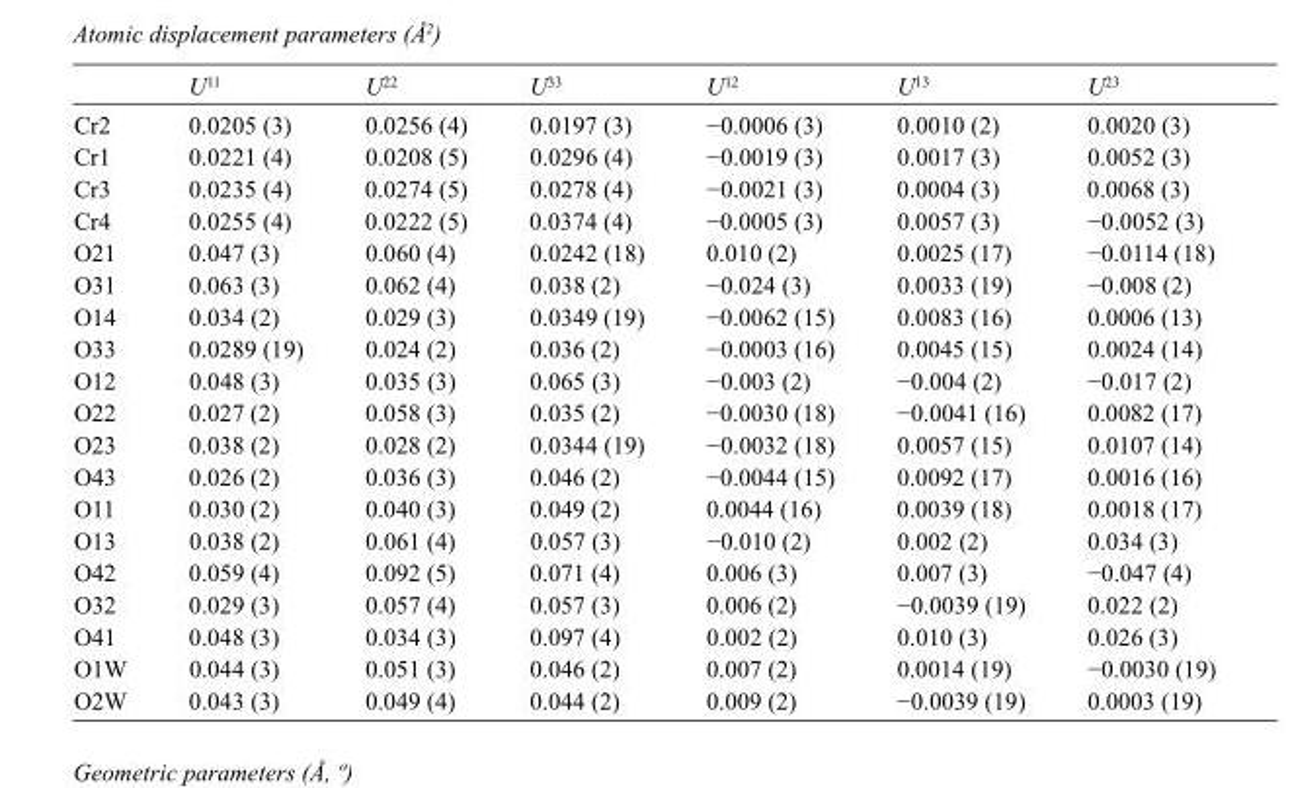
<table><thead><tr><td></td><td>U<sup>11</sup></td><td>U<sup>22</sup></td><td>U<sup>33</sup></td><td>U<sup>12</sup></td><td>U<sup>13</sup></td><td>U<sup>23</sup></td></tr></thead><tbody><tr><td>Cr2</td><td>0.0205 (3)</td><td>0.0256 (4)</td><td>0.0197 (3)</td><td>−0.0006 (3)</td><td>0.0010 (2)</td><td>0.0020 (3)</td></tr><tr><td>Cr1</td><td>0.0221 (4)</td><td>0.0208 (5)</td><td>0.0296 (4)</td><td>−0.0019 (3)</td><td>0.0017 (3)</td><td>0.0052 (3)</td></tr><tr><td>Cr3</td><td>0.0235 (4)</td><td>0.0274 (5)</td><td>0.0278 (4)</td><td>−0.0021 (3)</td><td>0.0004 (3)</td><td>0.0068 (3)</td></tr><tr><td>Cr4</td><td>0.0255 (4)</td><td>0.0222 (5)</td><td>0.0374 (4)</td><td>−0.0005 (3)</td><td>0.0057 (3)</td><td>−0.0052 (3)</td></tr><tr><td>O21</td><td>0.047 (3)</td><td>0.060 (4)</td><td>0.0242 (18)</td><td>0.010 (2)</td><td>0.0025 (17)</td><td>−0.0114 (18)</td></tr><tr><td>O31</td><td>0.063 (3)</td><td>0.062 (4)</td><td>0.038 (2)</td><td>−0.024 (3)</td><td>0.0033 (19)</td><td>−0.008 (2)</td></tr><tr><td>O14</td><td>0.034 (2)</td><td>0.029 (3)</td><td>0.0349 (19)</td><td>−0.0062 (15)</td><td>0.0083 (16)</td><td>0.0006 (13)</td></tr><tr><td>O33</td><td>0.0289 (19)</td><td>0.024 (2)</td><td>0.036 (2)</td><td>−0.0003 (16)</td><td>0.0045 (15)</td><td>0.0024 (14)</td></tr><tr><td>O12</td><td>0.048 (3)</td><td>0.035 (3)</td><td>0.065 (3)</td><td>−0.003 (2)</td><td>−0.004 (2)</td><td>−0.017 (2)</td></tr><tr><td>O22</td><td>0.027 (2)</td><td>0.058 (3)</td><td>0.035 (2)</td><td>−0.0030 (18)</td><td>−0.0041 (16)</td><td>0.0082 (17)</td></tr><tr><td>O23</td><td>0.038 (2)</td><td>0.028 (2)</td><td>0.0344 (19)</td><td>−0.0032 (18)</td><td>0.0057 (15)</td><td>0.0107 (14)</td></tr><tr><td>O43</td><td>0.026 (2)</td><td>0.036 (3)</td><td>0.046 (2)</td><td>−0.0044 (15)</td><td>0.0092 (17)</td><td>0.0016 (16)</td></tr><tr><td>O11</td><td>0.030 (2)</td><td>0.040 (3)</td><td>0.049 (2)</td><td>0.0044 (16)</td><td>0.0039 (18)</td><td>0.0018 (17)</td></tr><tr><td>O13</td><td>0.038 (2)</td><td>0.061 (4)</td><td>0.057 (3)</td><td>−0.010 (2)</td><td>0.002 (2)</td><td>0.034 (3)</td></tr><tr><td>O42</td><td>0.059 (4)</td><td>0.092 (5)</td><td>0.071 (4)</td><td>0.006 (3)</td><td>0.007 (3)</td><td>−0.047 (4)</td></tr><tr><td>O32</td><td>0.029 (3)</td><td>0.057 (4)</td><td>0.057 (3)</td><td>0.006 (2)</td><td>−0.0039 (19)</td><td>0.022 (2)</td></tr><tr><td>O41</td><td>0.048 (3)</td><td>0.034 (3)</td><td>0.097 (4)</td><td>0.002 (2)</td><td>0.010 (3)</td><td>0.026 (3)</td></tr><tr><td>O1W</td><td>0.044 (3)</td><td>0.051 (3)</td><td>0.046 (2)</td><td>0.007 (2)</td><td>0.0014 (19)</td><td>−0.0030 (19)</td></tr><tr><td>O2W</td><td>0.043 (3)</td><td>0.049 (4)</td><td>0.044 (2)</td><td>0.009 (2)</td><td>−0.0039 (19)</td><td>0.0003 (19)</td></tr></tbody></table>